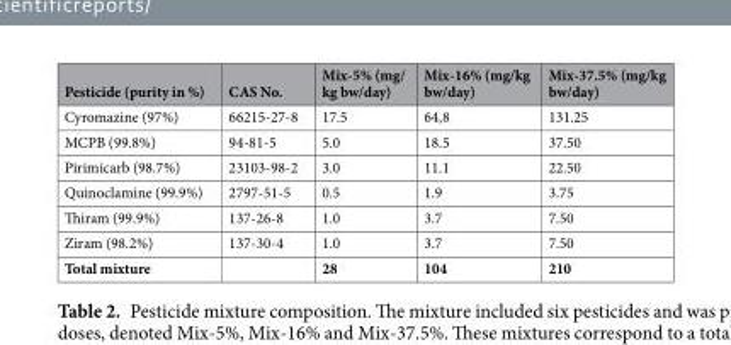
<table><thead><tr><td>Pesticide (purity in %)</td><td>CAS No.</td><td>Mix-5% (mg/ kg bw/day)</td><td>Mix-16% (mg/kg bw/day)</td><td>Mix-37.5% (mg/kg bw/day)</td></tr></thead><tbody><tr><td>Cyromazine (97%)</td><td>66215-27-8</td><td>17.5</td><td>64,8</td><td>131.25</td></tr><tr><td>MCPB (99.8%)</td><td>94-81-5</td><td>5.0</td><td>18.5</td><td>37.50</td></tr><tr><td>Pirimicarb (98.7%)</td><td>23103-98-2</td><td>3.0</td><td>11.1</td><td>22.50</td></tr><tr><td>Quinoclamine (99.9%)</td><td>2797-51-5</td><td>0.5</td><td>1.9</td><td>3.75</td></tr><tr><td>Thiram (99.9%)</td><td>137-26-8</td><td>1.0</td><td>3.7</td><td>7.50</td></tr><tr><td>Ziram (98.2%)</td><td>137-30-4</td><td>1.0</td><td>3.7</td><td>7.50</td></tr><tr><td>Total mixture</td><td></td><td>28</td><td>104</td><td>210</td></tr></tbody></table>